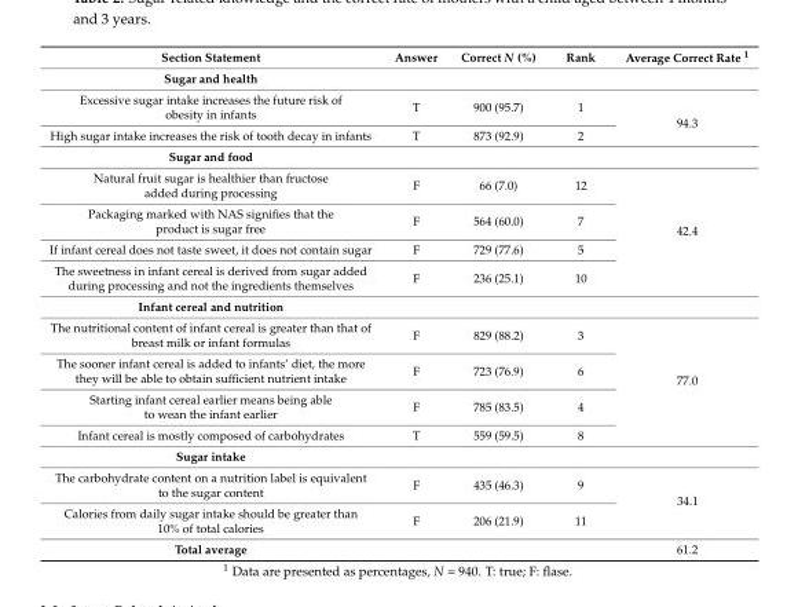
<table><thead><tr><td>Section Statement</td><td>Answer</td><td>Correct N (%)</td><td>Rank</td><td>Average Correct Rate <sup>1</sup></td></tr></thead><tbody><tr><td colspan="5">Sugar and health</td></tr><tr><td>Excessive sugar intake increases the future risk of obesity in infants</td><td>T</td><td>900 (95.7)</td><td>1</td><td rowspan="2">94.3</td></tr><tr><td>High sugar intake increases the risk of tooth decay in infants</td><td>T</td><td>873 (92.9)</td><td>2</td></tr><tr><td colspan="5">Sugar and food</td></tr><tr><td>Natural fruit sugar is healthier than fructose added during processing</td><td>F</td><td>66 (7.0)</td><td>12</td><td rowspan="4">42.4</td></tr><tr><td>Packaging marked with NAS signifies that the product is sugar free</td><td>F</td><td>564 (60.0)</td><td>7</td></tr><tr><td>If infant cereal does not taste sweet, it does not contain sugar</td><td>F</td><td>729 (77.6)</td><td>5</td></tr><tr><td>The sweetness in infant cereal is derived from sugar added during processing and not the ingredients themselves</td><td>F</td><td>236 (25.1)</td><td>10</td></tr><tr><td colspan="5">Infant cereal and nutrition</td></tr><tr><td>The nutritional content of infant cereal is greater than that of breast milk or infant formulas</td><td>F</td><td>829 (88.2)</td><td>3</td><td rowspan="4">77.0</td></tr><tr><td>The sooner infant cereal is added to infants’ diet, the more they will be able to obtain sufficient nutrient intake</td><td>F</td><td>723 (76.9)</td><td>6</td></tr><tr><td>Starting infant cereal earlier means being able to wean the infant earlier</td><td>F</td><td>785 (83.5)</td><td>4</td></tr><tr><td>Infant cereal is mostly composed of carbohydrates</td><td>T</td><td>559 (59.5)</td><td>8</td></tr><tr><td colspan="5">Sugar intake</td></tr><tr><td>The carbohydrate content on a nutrition label is equivalent to the sugar content</td><td>F</td><td>435 (46.3)</td><td>9</td><td rowspan="2">34.1</td></tr><tr><td>Calories from daily sugar intake should be greater than 10% of total calories</td><td>F</td><td>206 (21.9)</td><td>11</td></tr><tr><td>Total average</td><td colspan="3"></td><td>61.2</td></tr></tbody></table>